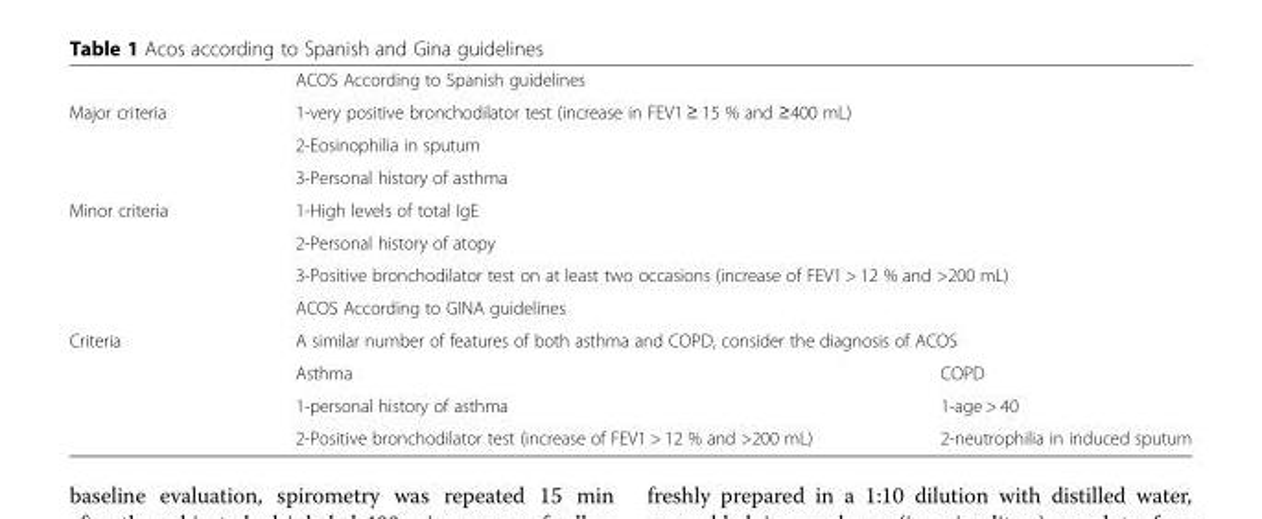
<table><thead><tr><td></td><td colspan="2">ACOS According to Spanish guidelines</td></tr></thead><tbody><tr><td rowspan="3">Major criteria</td><td colspan="2">1-very positive bronchodilator test (increase in FEV1 ≥ 15 % and ≥400 mL)</td></tr><tr><td colspan="2">2-Eosinophilia in sputum</td></tr><tr><td colspan="2">3-Personal history of asthma</td></tr><tr><td rowspan="4">Minor criteria</td><td colspan="2">1-High levels of total IgE</td></tr><tr><td colspan="2">2-Personal history of atopy</td></tr><tr><td colspan="2">3-Positive bronchodilator test on at least two occasions (increase of FEV1 &gt; 12 % and &gt;200 mL)</td></tr><tr><td colspan="2">ACOS According to GINA guidelines</td></tr><tr><td rowspan="4">Criteria</td><td colspan="2">A similar number of features of both asthma and COPD, consider the diagnosis of ACOS</td></tr><tr><td>Asthma</td><td>COPD</td></tr><tr><td>1-personal history of asthma</td><td>1-age &gt; 40</td></tr><tr><td>2-Positive bronchodilator test (increase of FEV1 &gt; 12 % and &gt;200 mL)</td><td>2-neutrophilia in induced sputum</td></tr></tbody></table>